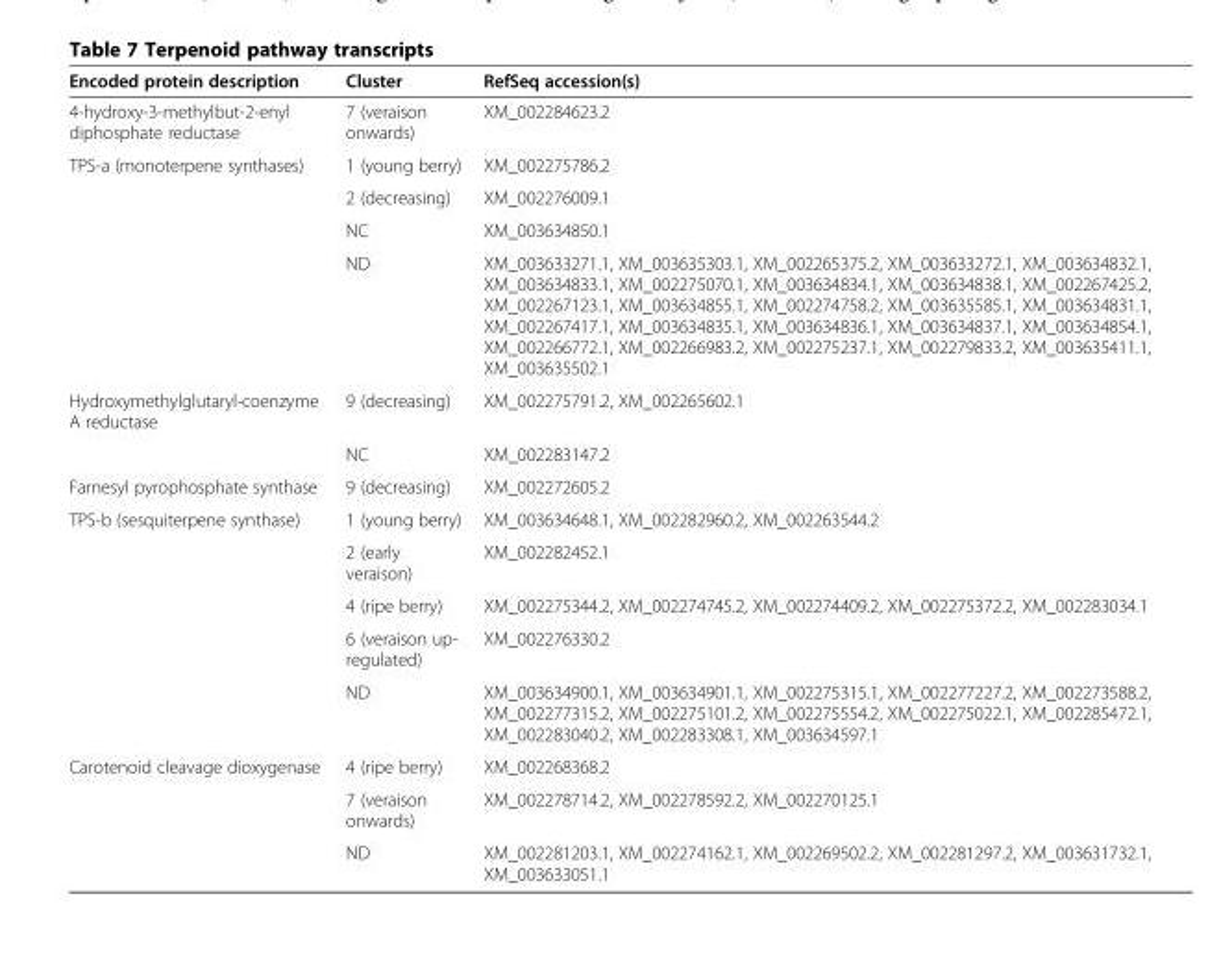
<table><thead><tr><td>Encoded protein description</td><td>Cluster</td><td>RefSeq accession(s)</td></tr></thead><tbody><tr><td>4-hydroxy-3-methylbut-2-enyl diphosphate reductase</td><td>7 (veraison onwards)</td><td>XM_002284623.2</td></tr><tr><td rowspan="4">TPS-a (monoterpene synthases)</td><td>1 (young berry)</td><td>XM_002275786.2</td></tr><tr><td>2 (decreasing)</td><td>XM_002276009.1</td></tr><tr><td>NC</td><td>XM_003634850.1</td></tr><tr><td>ND</td><td>XM_003633271.1, XM_003635303.1, XM_002265375.2, XM_003633272.1, XM_003634832.1, XM_003634833.1, XM_002275070.1, XM_003634834.1, XM_003634838.1, XM_002267425.2, XM_002267123.1, XM_003634855.1, XM_002274758.2, XM_003635585.1, XM_003634831.1, XM_002267417.1, XM_003634835.1, XM_003634836.1, XM_003634837.1, XM_003634854.1, XM_002266772.1, XM_002266983.2, XM_002275237.1, XM_002279833.2, XM_003635411.1, XM_003635502.1</td></tr><tr><td rowspan="2">Hydroxymethylglutaryl-coenzyme A reductase</td><td>9 (decreasing)</td><td>XM_002275791.2, XM_002265602.1</td></tr><tr><td>NC</td><td>XM_002283147.2</td></tr><tr><td>Farnesyl pyrophosphate synthase</td><td>9 (decreasing)</td><td>XM_002272605.2</td></tr><tr><td rowspan="5">TPS-b (sesquiterpene synthase)</td><td>1 (young berry)</td><td>XM_003634648.1, XM_002282960.2, XM_002263544.2</td></tr><tr><td>2 (early veraison)</td><td>XM_002282452.1</td></tr><tr><td>4 (ripe berry)</td><td>XM_002275344.2, XM_002274745.2, XM_002274409.2, XM_002275372.2, XM_002283034.1</td></tr><tr><td>6 (veraison up- regulated)</td><td>XM_002276330.2</td></tr><tr><td>ND</td><td>XM_003634900.1, XM_003634901.1, XM_002275315.1, XM_002277227.2, XM_002273588.2, XM_002277315.2, XM_002275101.2, XM_002275554.2, XM_002275022.1, XM_002285472.1, XM_002283040.2, XM_002283308.1, XM_003634597.1</td></tr><tr><td rowspan="3">Carotenoid cleavage dioxygenase</td><td>4 (ripe berry)</td><td>XM_002268368.2</td></tr><tr><td>7 (veraison onwards)</td><td>XM_002278714.2, XM_002278592.2, XM_002270125.1</td></tr><tr><td>ND</td><td>XM_002281203.1, XM_002274162.1, XM_002269502.2, XM_002281297.2, XM_003631732.1, XM_003633051.1</td></tr></tbody></table>